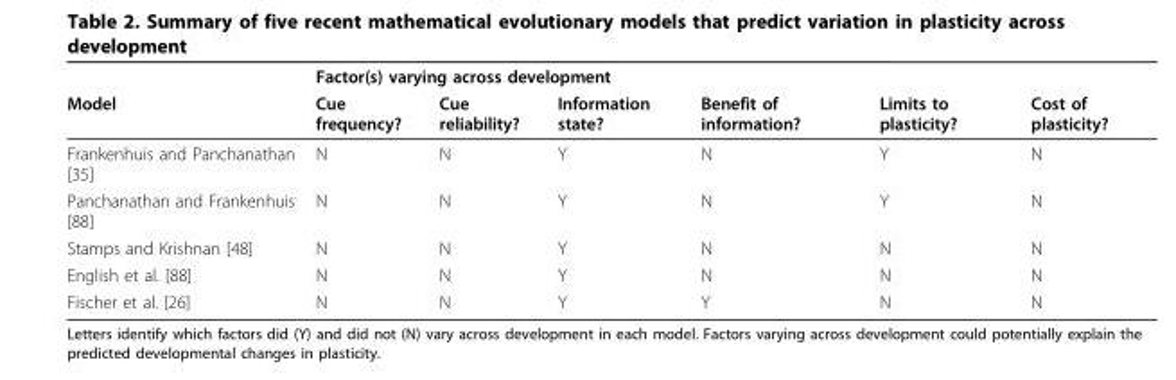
<table><thead><tr><td rowspan="2">Model</td><td colspan="6">Factor(s) varying across development</td></tr><tr><td>Cue frequency?</td><td>Cue reliability?</td><td>Information state?</td><td>Benefit of information?</td><td>Limits to plasticity?</td><td>Cost of plasticity?</td></tr></thead><tbody><tr><td>Frankenhuis and Panchanathan [35]</td><td>N</td><td>N</td><td>Y</td><td>N</td><td>Y</td><td>N</td></tr><tr><td>Panchanathan and Frankenhuis [88]</td><td>N</td><td>N</td><td>Y</td><td>N</td><td>Y</td><td>N</td></tr><tr><td>Stamps and Krishnan [48]</td><td>N</td><td>N</td><td>Y</td><td>N</td><td>N</td><td>N</td></tr><tr><td>English et al. [88]</td><td>N</td><td>N</td><td>Y</td><td>N</td><td>N</td><td>N</td></tr><tr><td>Fischer et al. [26]</td><td>N</td><td>N</td><td>Y</td><td>Y</td><td>N</td><td>N</td></tr></tbody></table>